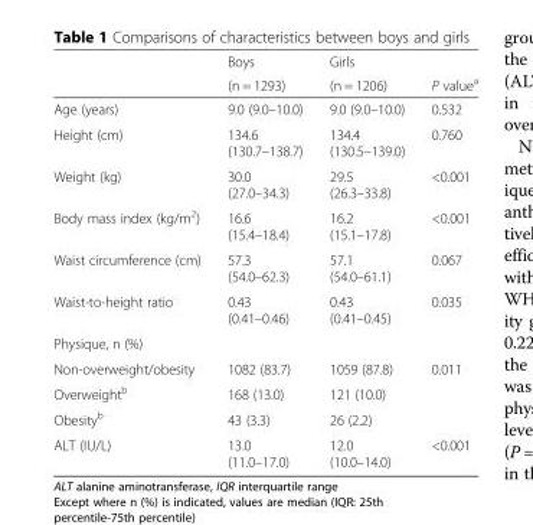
<table><thead><tr><td rowspan="2"></td><td rowspan="2">Boys (n = 1293)</td><td rowspan="2">Girls (n = 1206)</td><td rowspan="2">P value<sup>a</sup></td></tr><tr></tr></thead><tbody><tr><td>Age (years)</td><td>9.0 (9.0–10.0)</td><td>9.0 (9.0–10.0)</td><td>0.532</td></tr><tr><td>Height (cm)</td><td>134.6 (130.7–138.7)</td><td>134.4 (130.5–139.0)</td><td>0.760</td></tr><tr><td>Weight (kg)</td><td>30.0 (27.0–34.3)</td><td>29.5 (26.3–33.8)</td><td>&lt;0.001</td></tr><tr><td>Body mass index (kg/m<sup>2</sup>)</td><td>16.6 (15.4–18.4)</td><td>16.2 (15.1–17.8)</td><td>&lt;0.001</td></tr><tr><td>Waist circumference (cm)</td><td>57.3 (54.0–62.3)</td><td>57.1 (54.0–61.1)</td><td>0.067</td></tr><tr><td>Waist-to-height ratio</td><td>0.43 (0.41–0.46)</td><td>0.43 (0.41–0.45)</td><td>0.035</td></tr><tr><td colspan="4">Physique, n (%)</td></tr><tr><td>Non-overweight/obesity</td><td>1082 (83.7)</td><td>1059 (87.8)</td><td>0.011</td></tr><tr><td>Overweight<sup>b</sup></td><td>168 (13.0)</td><td>121 (10.0)</td><td></td></tr><tr><td>Obesity<sup>b</sup></td><td>43 (3.3)</td><td>26 (2.2)</td><td></td></tr><tr><td>ALT (IU/L)</td><td>13.0 (11.0–17.0)</td><td>12.0 (10.0–14.0)</td><td>&lt;0.001</td></tr></tbody></table>